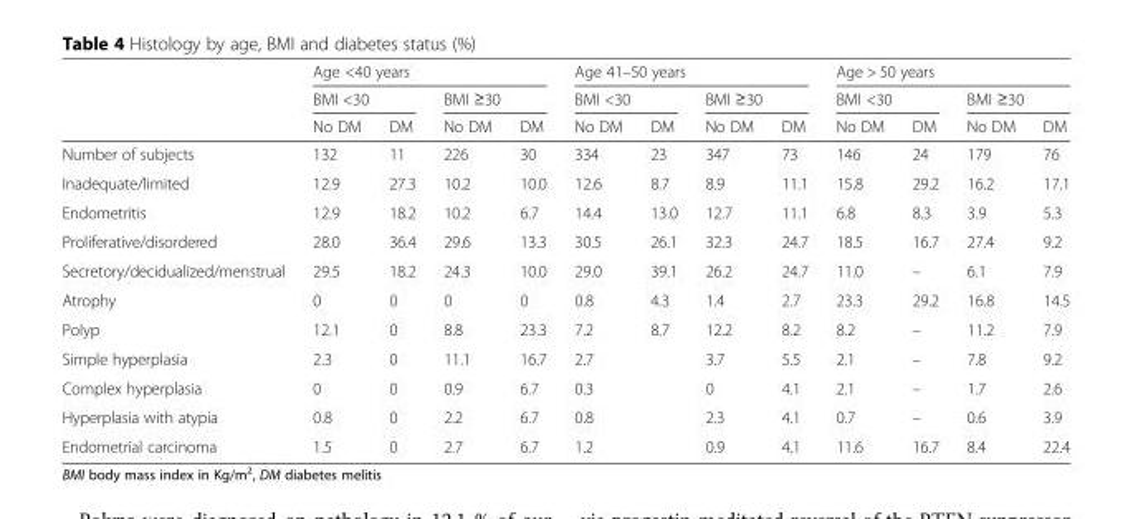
<table><thead><tr><td rowspan="3"></td><td colspan="4">Age &lt;40 years</td><td colspan="4">Age 41–50 years</td><td colspan="4">Age &gt; 50 years</td></tr><tr><td colspan="2">BMI &lt;30</td><td colspan="2">BMI ≥30</td><td colspan="2">BMI &lt;30</td><td colspan="2">BMI ≥30</td><td colspan="2">BMI &lt;30</td><td colspan="2">BMI ≥30</td></tr><tr><td>No DM</td><td>DM</td><td>No DM</td><td>DM</td><td>No DM</td><td>DM</td><td>No DM</td><td>DM</td><td>No DM</td><td>DM</td><td>No DM</td><td>DM</td></tr></thead><tbody><tr><td>Number of subjects</td><td>132</td><td>11</td><td>226</td><td>30</td><td>334</td><td>23</td><td>347</td><td>73</td><td>146</td><td>24</td><td>179</td><td>76</td></tr><tr><td>Inadequate/limited</td><td>12.9</td><td>27.3</td><td>10.2</td><td>10.0</td><td>12.6</td><td>8.7</td><td>8.9</td><td>11.1</td><td>15.8</td><td>29.2</td><td>16.2</td><td>17.1</td></tr><tr><td>Endometritis</td><td>12.9</td><td>18.2</td><td>10.2</td><td>6.7</td><td>14.4</td><td>13.0</td><td>12.7</td><td>11.1</td><td>6.8</td><td>8.3</td><td>3.9</td><td>5.3</td></tr><tr><td>Proliferative/disordered</td><td>28.0</td><td>36.4</td><td>29.6</td><td>13.3</td><td>30.5</td><td>26.1</td><td>32.3</td><td>24.7</td><td>18.5</td><td>16.7</td><td>27.4</td><td>9.2</td></tr><tr><td>Secretory/decidualized/menstrual</td><td>29.5</td><td>18.2</td><td>24.3</td><td>10.0</td><td>29.0</td><td>39.1</td><td>26.2</td><td>24.7</td><td>11.0</td><td>–</td><td>6.1</td><td>7.9</td></tr><tr><td>Atrophy</td><td>0</td><td>0</td><td>0</td><td>0</td><td>0.8</td><td>4.3</td><td>1.4</td><td>2.7</td><td>23.3</td><td>29.2</td><td>16.8</td><td>14.5</td></tr><tr><td>Polyp</td><td>12.1</td><td>0</td><td>8.8</td><td>23.3</td><td>7.2</td><td>8.7</td><td>12.2</td><td>8.2</td><td>8.2</td><td>–</td><td>11.2</td><td>7.9</td></tr><tr><td>Simple hyperplasia</td><td>2.3</td><td>0</td><td>11.1</td><td>16.7</td><td>2.7</td><td></td><td>3.7</td><td>5.5</td><td>2.1</td><td>–</td><td>7.8</td><td>9.2</td></tr><tr><td>Complex hyperplasia</td><td>0</td><td>0</td><td>0.9</td><td>6.7</td><td>0.3</td><td></td><td>0</td><td>4.1</td><td>2.1</td><td>–</td><td>1.7</td><td>2.6</td></tr><tr><td>Hyperplasia with atypia</td><td>0.8</td><td>0</td><td>2.2</td><td>6.7</td><td>0.8</td><td></td><td>2.3</td><td>4.1</td><td>0.7</td><td>–</td><td>0.6</td><td>3.9</td></tr><tr><td>Endometrial carcinoma</td><td>1.5</td><td>0</td><td>2.7</td><td>6.7</td><td>1.2</td><td></td><td>0.9</td><td>4.1</td><td>11.6</td><td>16.7</td><td>8.4</td><td>22.4</td></tr></tbody></table>